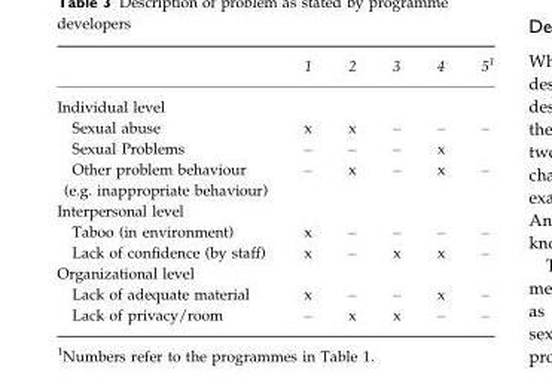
<table><thead><tr><td></td><td>1</td><td>2</td><td>3</td><td>4</td><td>5<sup>1</sup></td></tr></thead><tbody><tr><td colspan="6">Individual level</td></tr><tr><td>Sexual abuse</td><td>x</td><td>x</td><td>–</td><td>–</td><td>–</td></tr><tr><td>Sexual Problems</td><td>–</td><td>–</td><td>–</td><td>x</td><td></td></tr><tr><td>Other problem behaviour (e.g. inappropriate behaviour)</td><td>–</td><td>x</td><td>–</td><td>x</td><td>–</td></tr><tr><td colspan="6">Interpersonal level</td></tr><tr><td>Taboo (in environment)</td><td>x</td><td>–</td><td>–</td><td>–</td><td>–</td></tr><tr><td>Lack of confidence (by staff)</td><td>x</td><td>–</td><td>x</td><td>x</td><td>–</td></tr><tr><td colspan="6">Organizational level</td></tr><tr><td>Lack of adequate material</td><td>x</td><td>–</td><td>–</td><td>x</td><td>–</td></tr><tr><td>Lack of privacy/room</td><td>–</td><td>x</td><td>x</td><td>–</td><td>–</td></tr></tbody></table>